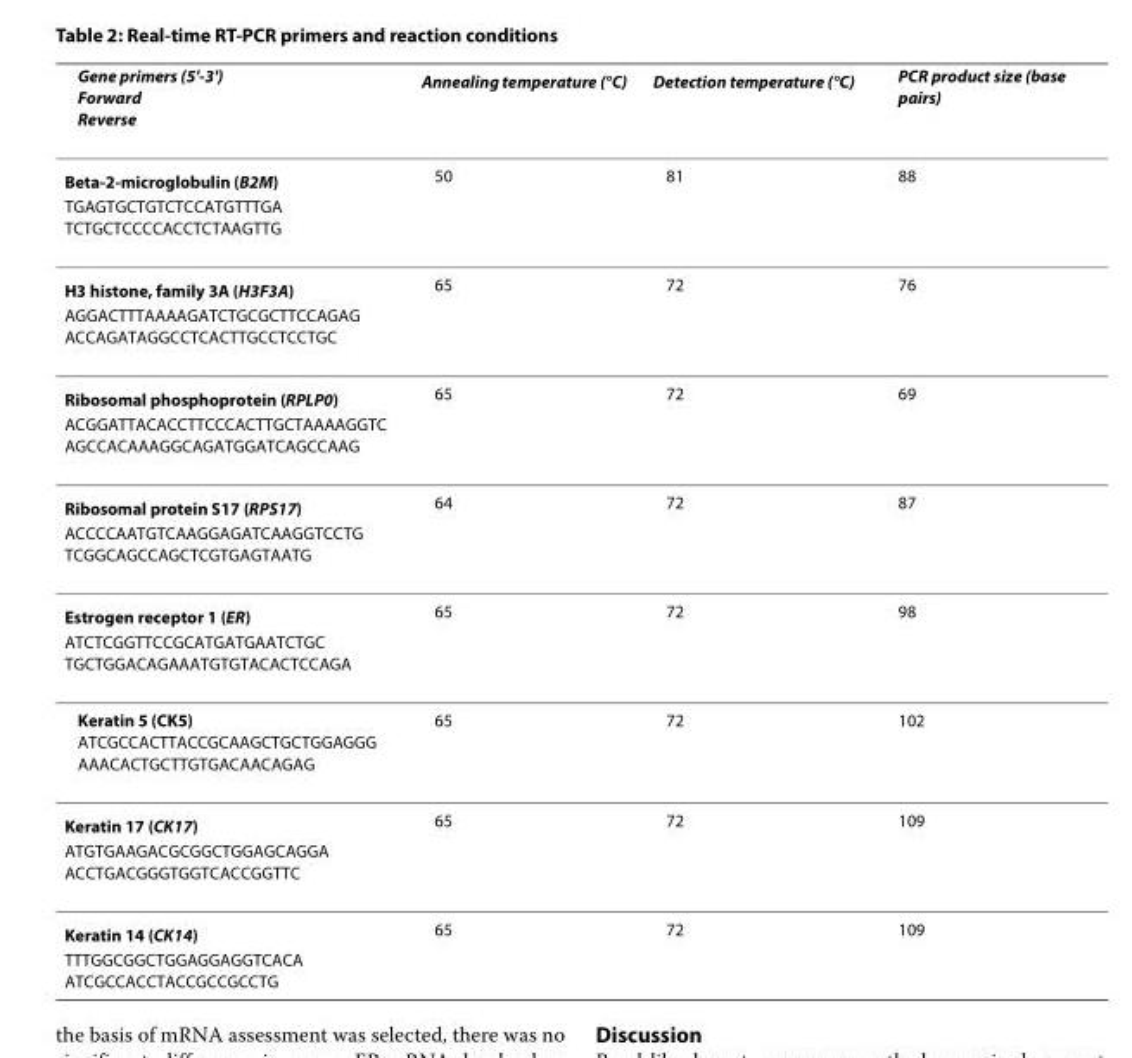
<table><thead><tr><td>Gene primers (5&#x27;-3&#x27;) Forward Reverse</td><td>Annealing temperature (<sup>°</sup>C)</td><td>Detection temperature (<sup>°</sup>C)</td><td>PCR product size (base pairs)</td></tr></thead><tbody><tr><td>Beta-2-microglobulin (B2M) TGAGTGCTGTCTCCATGTTTGA TCTGCTCCCCACCTCTAAGTTG</td><td>50</td><td>81</td><td>88</td></tr><tr><td>H3 histone, family 3A (H3F3A) AGGACTTTAAAAGATCTGCGCTTCCAGAG ACCAGATAGGCCTCACTTGCCTCCTGC</td><td>65</td><td>72</td><td>76</td></tr><tr><td>Ribosomal phosphoprotein (RPLP0) ACGGATTACACCTTCCCACTTGCTAAAAGGTC AGCCACAAAGGCAGATGGATCAGCCAAG</td><td>65</td><td>72</td><td>69</td></tr><tr><td>Ribosomal protein S17 (RPS17) ACCCCAATGTCAAGGAGATCAAGGTCCTG TCGGCAGCCAGCTCGTGAGTAATG</td><td>64</td><td>72</td><td>87</td></tr><tr><td>Estrogen receptor 1 (ER) ATCTCGGTTCCGCATGATGAATCTGC TGCTGGACAGAAATGTGTACACTCCAGA</td><td>65</td><td>72</td><td>98</td></tr><tr><td>Keratin 5 (CK5) ATCGCCACTTACCGCAAGCTGCTGGAGGG AAACACTGCTTGTGACAACAGAG</td><td>65</td><td>72</td><td>102</td></tr><tr><td>Keratin 17 (CK17) ATGTGAAGACGCGGCTGGAGCAGGA ACCTGACGGGTGGTCACCGGTTC</td><td>65</td><td>72</td><td>109</td></tr><tr><td>Keratin 14 (CK14) TTTGGCGGCTGGAGGAGGTCACA ATCGCCACCTACCGCCGCCTG</td><td>65</td><td>72</td><td>109</td></tr></tbody></table>